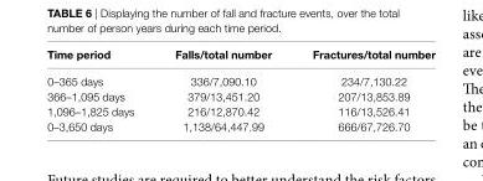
<table><thead><tr><td>Time period</td><td>Falls/total number</td><td>Fractures/total number</td></tr></thead><tbody><tr><td>0–365 days</td><td>336/7,090.10</td><td>234/7,130.22</td></tr><tr><td>366–1,095 days</td><td>379/13,451.20</td><td>207/13,853.89</td></tr><tr><td>1,096–1,825 days</td><td>216/12,870.42</td><td>116/13,526.41</td></tr><tr><td>0–3,650 days</td><td>1,138/64,447.99</td><td>666/67,726.70</td></tr></tbody></table>